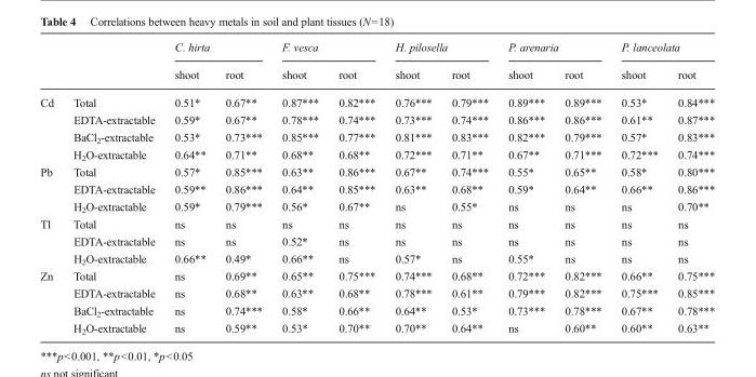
<table><thead><tr><td rowspan="2"></td><td rowspan="2"></td><td colspan="2">C. hirta</td><td colspan="2">F. vesca</td><td colspan="2">H. pilosella</td><td colspan="2">P. arenaria</td><td colspan="2">P. lanceolata</td></tr><tr><td>shoot</td><td>root</td><td>shoot</td><td>root</td><td>shoot</td><td>root</td><td>shoot</td><td>root</td><td>shoot</td><td>root</td></tr></thead><tbody><tr><td rowspan="4">Cd</td><td>Total</td><td>0.51*</td><td>0.67**</td><td>0.87***</td><td>0.82***</td><td>0.76***</td><td>0.79***</td><td>0.89***</td><td>0.89***</td><td>0.53*</td><td>0.84***</td></tr><tr><td>EDTA-extractable</td><td>0.59*</td><td>0.67**</td><td>0.78***</td><td>0.74***</td><td>0.73***</td><td>0.74***</td><td>0.86***</td><td>0.86***</td><td>0.61**</td><td>0.87***</td></tr><tr><td>BaCl<sub>2</sub>-extractable</td><td>0.53*</td><td>0.73***</td><td>0.85***</td><td>0.77***</td><td>0.81***</td><td>0.83***</td><td>0.82***</td><td>0.79***</td><td>0.57*</td><td>0.83***</td></tr><tr><td>H<sub>2</sub>O-extractable</td><td>0.64**</td><td>0.71**</td><td>0.68**</td><td>0.68**</td><td>0.72***</td><td>0.71**</td><td>0.67**</td><td>0.71***</td><td>0.72***</td><td>0.74***</td></tr><tr><td rowspan="3">Pb</td><td>Total</td><td>0.57*</td><td>0.85***</td><td>0.63**</td><td>0.86***</td><td>0.67**</td><td>0.74***</td><td>0.55*</td><td>0.65**</td><td>0.58*</td><td>0.80***</td></tr><tr><td>EDTA-extractable</td><td>0.59**</td><td>0.86***</td><td>0.64**</td><td>0.85***</td><td>0.63**</td><td>0.68**</td><td>0.59*</td><td>0.64**</td><td>0.66**</td><td>0.86***</td></tr><tr><td>H<sub>2</sub>O-extractable</td><td>0.59*</td><td>0.79***</td><td>0.56*</td><td>0.67**</td><td>ns</td><td>0.55*</td><td>ns</td><td>ns</td><td>ns</td><td>0.70**</td></tr><tr><td rowspan="3">Tl</td><td>Total</td><td>ns</td><td>ns</td><td>ns</td><td>ns</td><td>ns</td><td>ns</td><td>ns</td><td>ns</td><td>ns</td><td>ns</td></tr><tr><td>EDTA-extractable</td><td>ns</td><td>ns</td><td>0.52*</td><td>ns</td><td>ns</td><td>ns</td><td>ns</td><td>ns</td><td>ns</td><td>ns</td></tr><tr><td>H<sub>2</sub>O-extractable</td><td>0.66**</td><td>0.49*</td><td>0.66**</td><td>ns</td><td>0.57*</td><td>ns</td><td>0.55*</td><td>ns</td><td>ns</td><td>ns</td></tr><tr><td rowspan="4">Zn</td><td>Total</td><td>ns</td><td>0.69**</td><td>0.65**</td><td>0.75***</td><td>0.74***</td><td>0.68**</td><td>0.72***</td><td>0.82***</td><td>0.66**</td><td>0.75***</td></tr><tr><td>EDTA-extractable</td><td>ns</td><td>0.68**</td><td>0.63**</td><td>0.68**</td><td>0.78***</td><td>0.61**</td><td>0.79***</td><td>0.82***</td><td>0.75***</td><td>0.85***</td></tr><tr><td>BaCl<sub>2</sub>-extractable</td><td>ns</td><td>0.74***</td><td>0.58*</td><td>0.66**</td><td>0.64**</td><td>0.53*</td><td>0.73***</td><td>0.78***</td><td>0.67**</td><td>0.78***</td></tr><tr><td>H<sub>2</sub>O-extractable</td><td>ns</td><td>0.59**</td><td>0.53*</td><td>0.70**</td><td>0.70**</td><td>0.64**</td><td>ns</td><td>0.60**</td><td>0.60**</td><td>0.63**</td></tr></tbody></table>